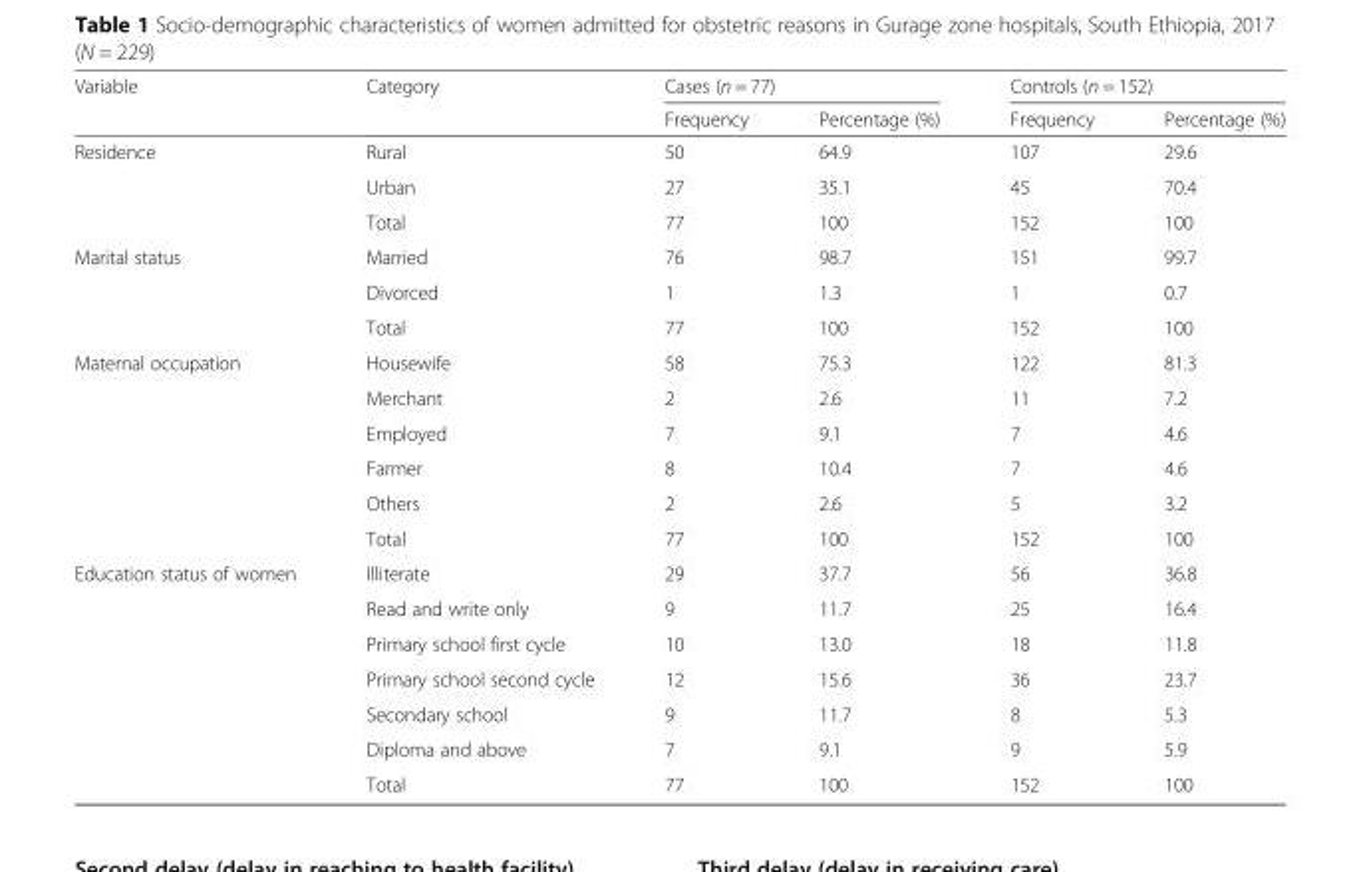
<table><thead><tr><td rowspan="2">Variable</td><td rowspan="2">Category</td><td colspan="2">Cases (n = 77)</td><td colspan="2">Controls (n = 152)</td></tr><tr><td>Frequency</td><td>Percentage (%)</td><td>Frequency</td><td>Percentage (%)</td></tr></thead><tbody><tr><td rowspan="3">Residence</td><td>Rural</td><td>50</td><td>64.9</td><td>107</td><td>29.6</td></tr><tr><td>Urban</td><td>27</td><td>35.1</td><td>45</td><td>70.4</td></tr><tr><td>Total</td><td>77</td><td>100</td><td>152</td><td>100</td></tr><tr><td rowspan="3">Marital status</td><td>Married</td><td>76</td><td>98.7</td><td>151</td><td>99.7</td></tr><tr><td>Divorced</td><td>1</td><td>1.3</td><td>1</td><td>0.7</td></tr><tr><td>Total</td><td>77</td><td>100</td><td>152</td><td>100</td></tr><tr><td rowspan="6">Maternal occupation</td><td>Housewife</td><td>58</td><td>75.3</td><td>122</td><td>81.3</td></tr><tr><td>Merchant</td><td>2</td><td>2.6</td><td>11</td><td>7.2</td></tr><tr><td>Employed</td><td>7</td><td>9.1</td><td>7</td><td>4.6</td></tr><tr><td>Farmer</td><td>8</td><td>10.4</td><td>7</td><td>4.6</td></tr><tr><td>Others</td><td>2</td><td>2.6</td><td>5</td><td>3.2</td></tr><tr><td>Total</td><td>77</td><td>100</td><td>152</td><td>100</td></tr><tr><td rowspan="7">Education status of women</td><td>Illiterate</td><td>29</td><td>37.7</td><td>56</td><td>36.8</td></tr><tr><td>Read and write only</td><td>9</td><td>11.7</td><td>25</td><td>16.4</td></tr><tr><td>Primary school first cycle</td><td>10</td><td>13.0</td><td>18</td><td>11.8</td></tr><tr><td>Primary school second cycle</td><td>12</td><td>15.6</td><td>36</td><td>23.7</td></tr><tr><td>Secondary school</td><td>9</td><td>11.7</td><td>8</td><td>5.3</td></tr><tr><td>Diploma and above</td><td>7</td><td>9.1</td><td>9</td><td>5.9</td></tr><tr><td>Total</td><td>77</td><td>100</td><td>152</td><td>100</td></tr></tbody></table>